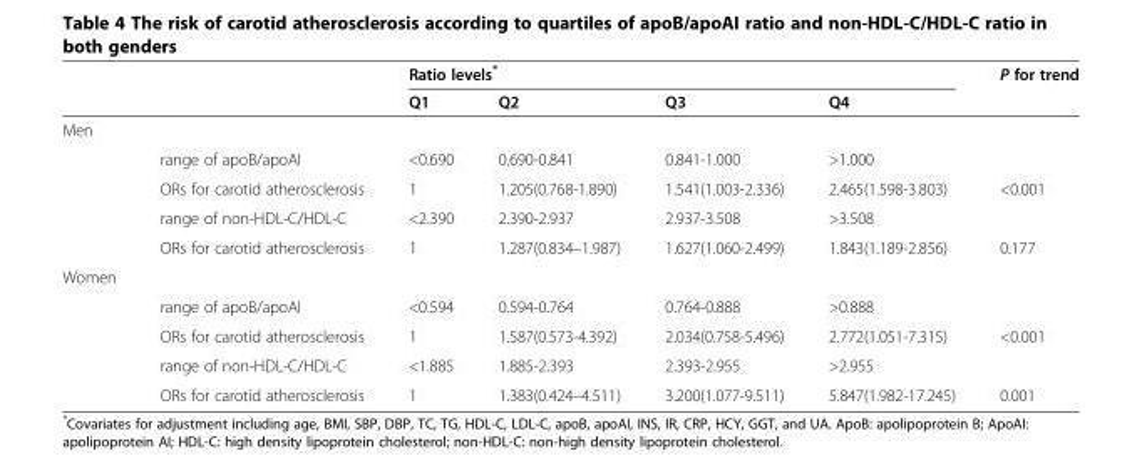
<table><thead><tr><td rowspan="2"></td><td rowspan="2"></td><td colspan="4">Ratio levels*</td><td rowspan="2">P for trend</td></tr><tr><td>Q1</td><td>Q2</td><td>Q3</td><td>Q4</td></tr></thead><tbody><tr><td colspan="7">Men</td></tr><tr><td></td><td>range of apoB/apoAΙ</td><td>&lt;0.690</td><td>0.690-0.841</td><td>0.841-1.000</td><td>&gt;1.000</td><td></td></tr><tr><td></td><td>ORs for carotid atherosclerosis</td><td>1</td><td>1.205(0.768-1.890)</td><td>1.541(1.003-2.336)</td><td>2.465(1.598-3.803)</td><td>&lt;0.001</td></tr><tr><td></td><td>range of non-HDL-C/HDL-C</td><td>&lt;2.390</td><td>2.390-2.937</td><td>2.937-3.508</td><td>&gt;3.508</td><td></td></tr><tr><td></td><td>ORs for carotid atherosclerosis</td><td>1</td><td>1.287(0.834–1.987)</td><td>1.627(1.060-2.499)</td><td>1.843(1.189-2.856)</td><td>0.177</td></tr><tr><td colspan="7">Women</td></tr><tr><td></td><td>range of apoB/apoAΙ</td><td>&lt;0.594</td><td>0.594-0.764</td><td>0.764-0.888</td><td>&gt;0.888</td><td></td></tr><tr><td></td><td>ORs for carotid atherosclerosis</td><td>1</td><td>1.587(0.573-4.392)</td><td>2.034(0.758-5.496)</td><td>2.772(1.051-7.315)</td><td>&lt;0.001</td></tr><tr><td></td><td>range of non-HDL-C/HDL-C</td><td>&lt;1.885</td><td>1.885-2.393</td><td>2.393-2.955</td><td>&gt;2.955</td><td></td></tr><tr><td></td><td>ORs for carotid atherosclerosis</td><td>1</td><td>1.383(0.424–4.511)</td><td>3.200(1.077-9.511)</td><td>5.847(1.982-17.245)</td><td>0.001</td></tr></tbody></table>